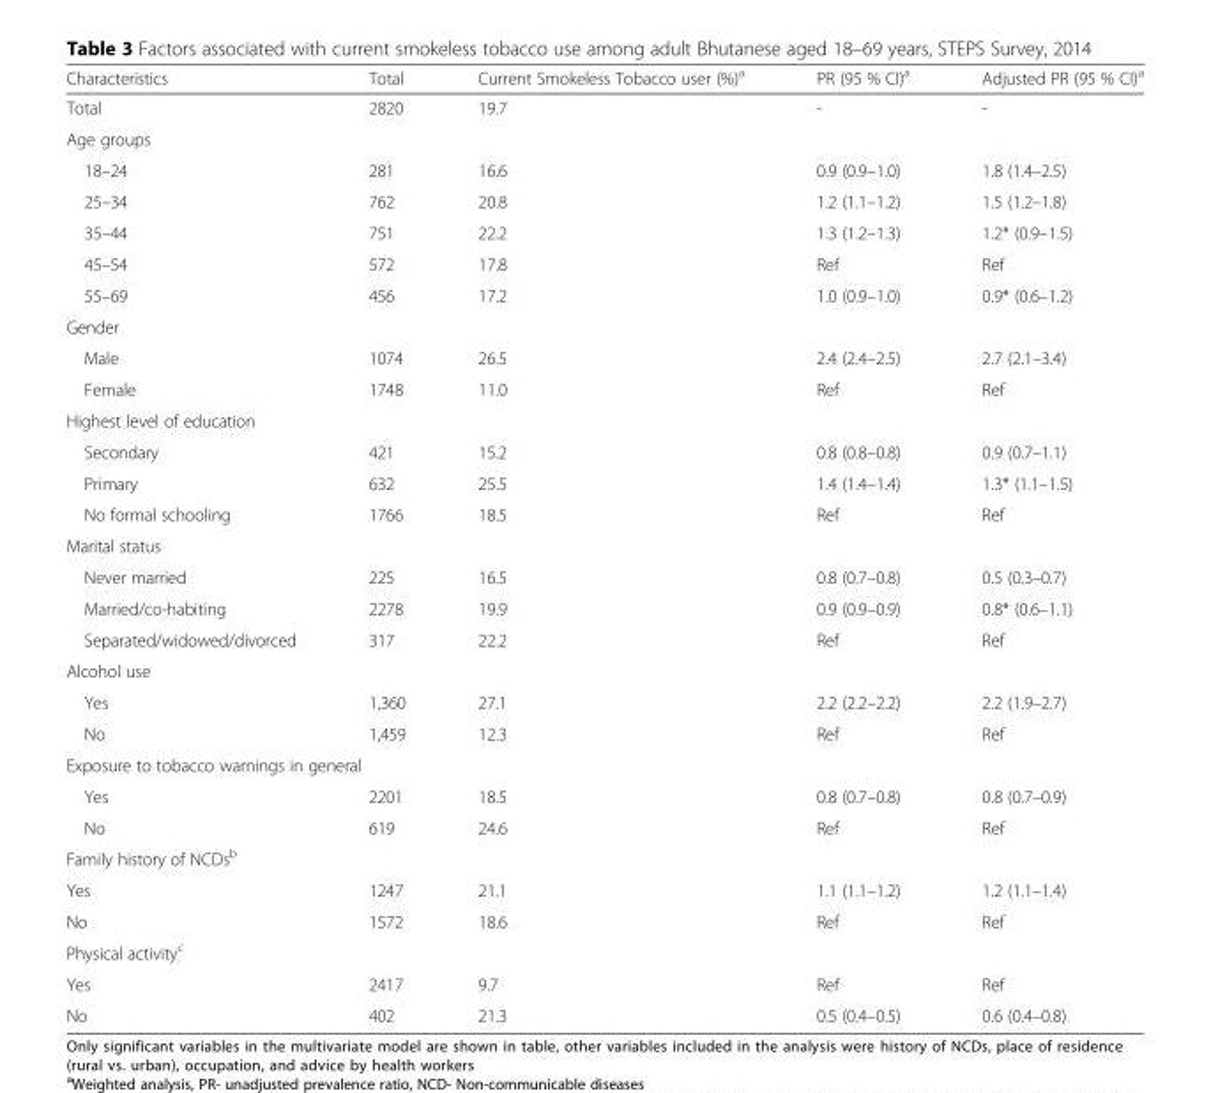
<table><thead><tr><td>Characteristics</td><td>Total</td><td>Current Smokeless Tobacco user (%)<sup>a</sup></td><td>PR (95 % CI)<sup>a</sup></td><td>Adjusted PR (95 % CI)<sup>a</sup></td></tr></thead><tbody><tr><td>Total</td><td>2820</td><td>19.7</td><td>-</td><td>-</td></tr><tr><td colspan="5">Age groups</td></tr><tr><td>18–24</td><td>281</td><td>16.6</td><td>0.9 (0.9–1.0)</td><td>1.8 (1.4–2.5)</td></tr><tr><td>25–34</td><td>762</td><td>20.8</td><td>1.2 (1.1–1.2)</td><td>1.5 (1.2–1.8)</td></tr><tr><td>35–44</td><td>751</td><td>22.2</td><td>1.3 (1.2–1.3)</td><td>1.2* (0.9–1.5)</td></tr><tr><td>45–54</td><td>572</td><td>17.8</td><td>Ref</td><td>Ref</td></tr><tr><td>55–69</td><td>456</td><td>17.2</td><td>1.0 (0.9–1.0)</td><td>0.9* (0.6–1.2)</td></tr><tr><td colspan="5">Gender</td></tr><tr><td>Male</td><td>1074</td><td>26.5</td><td>2.4 (2.4–2.5)</td><td>2.7 (2.1–3.4)</td></tr><tr><td>Female</td><td>1748</td><td>11.0</td><td>Ref</td><td>Ref</td></tr><tr><td colspan="5">Highest level of education</td></tr><tr><td>Secondary</td><td>421</td><td>15.2</td><td>0.8 (0.8–0.8)</td><td>0.9 (0.7–1.1)</td></tr><tr><td>Primary</td><td>632</td><td>25.5</td><td>1.4 (1.4–1.4)</td><td>1.3* (1.1–1.5)</td></tr><tr><td>No formal schooling</td><td>1766</td><td>18.5</td><td>Ref</td><td>Ref</td></tr><tr><td colspan="5">Marital status</td></tr><tr><td>Never married</td><td>225</td><td>16.5</td><td>0.8 (0.7–0.8)</td><td>0.5 (0.3–0.7)</td></tr><tr><td>Married/co-habiting</td><td>2278</td><td>19.9</td><td>0.9 (0.9–0.9)</td><td>0.8* (0.6–1.1)</td></tr><tr><td>Separated/widowed/divorced</td><td>317</td><td>22.2</td><td>Ref</td><td>Ref</td></tr><tr><td colspan="5">Alcohol use</td></tr><tr><td>Yes</td><td>1,360</td><td>27.1</td><td>2.2 (2.2–2.2)</td><td>2.2 (1.9–2.7)</td></tr><tr><td>No</td><td>1,459</td><td>12.3</td><td>Ref</td><td>Ref</td></tr><tr><td colspan="5">Exposure to tobacco warnings in general</td></tr><tr><td>Yes</td><td>2201</td><td>18.5</td><td>0.8 (0.7–0.8)</td><td>0.8 (0.7–0.9)</td></tr><tr><td>No</td><td>619</td><td>24.6</td><td>Ref</td><td>Ref</td></tr><tr><td colspan="5">Family history of NCDs<sup>b</sup></td></tr><tr><td>Yes</td><td>1247</td><td>21.1</td><td>1.1 (1.1–1.2)</td><td>1.2 (1.1–1.4)</td></tr><tr><td>No</td><td>1572</td><td>18.6</td><td>Ref</td><td>Ref</td></tr><tr><td colspan="5">Physical activity<sup>c</sup></td></tr><tr><td>Yes</td><td>2417</td><td>9.7</td><td>Ref</td><td>Ref</td></tr><tr><td>No</td><td>402</td><td>21.3</td><td>0.5 (0.4–0.5)</td><td>0.6 (0.4–0.8)</td></tr></tbody></table>